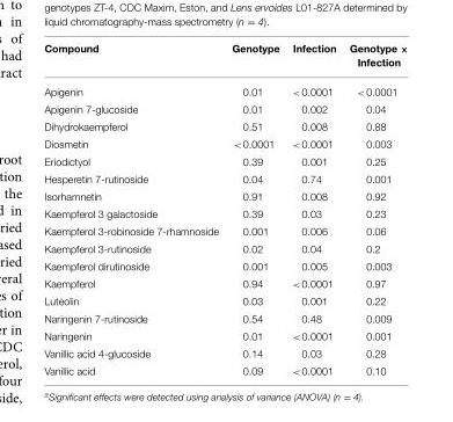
<table><thead><tr><td>Compound</td><td>Genotype</td><td>Infection</td><td>Genotype × Infection</td></tr></thead><tbody><tr><td>Apigenin</td><td>0.01</td><td>&lt;0.0001</td><td>&lt;0.0001</td></tr><tr><td>Apigenin 7-glucoside</td><td>0.01</td><td>0.002</td><td>0.04</td></tr><tr><td>Dihydrokaempferol</td><td>0.51</td><td>0.008</td><td>0.88</td></tr><tr><td>Diosmetin</td><td>&lt;0.0001</td><td>&lt;0.0001</td><td>0.003</td></tr><tr><td>Eriodictyol</td><td>0.39</td><td>0.001</td><td>0.25</td></tr><tr><td>Hesperetin 7-rutinoside</td><td>0.04</td><td>0.74</td><td>0.001</td></tr><tr><td>Isorhamnetin</td><td>0.91</td><td>0.008</td><td>0.92</td></tr><tr><td>Kaempferol 3 galactoside</td><td>0.39</td><td>0.03</td><td>0.23</td></tr><tr><td>Kaempferol 3-robinoside 7-rhamnoside</td><td>0.001</td><td>0.006</td><td>0.06</td></tr><tr><td>Kaempferol 3-rutinoside</td><td>0.02</td><td>0.04</td><td>0.2</td></tr><tr><td>Kaempferol dirutinoside</td><td>0.001</td><td>0.005</td><td>0.003</td></tr><tr><td>Kaempferol</td><td>0.94</td><td>&lt;0.0001</td><td>0.97</td></tr><tr><td>Luteolin</td><td>0.03</td><td>0.001</td><td>0.22</td></tr><tr><td>Naringenin 7-rutinoside</td><td>0.54</td><td>0.48</td><td>0.009</td></tr><tr><td>Naringenin</td><td>0.01</td><td>&lt;0.0001</td><td>0.001</td></tr><tr><td>Vanillic acid 4-glucoside</td><td>0.14</td><td>0.03</td><td>0.28</td></tr><tr><td>Vanillic acid</td><td>0.09</td><td>&lt;0.0001</td><td>0.10</td></tr></tbody></table>